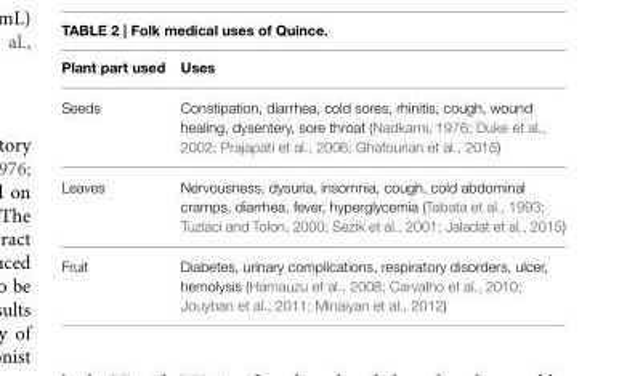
<table><thead><tr><td>Plant part used</td><td>Uses</td></tr></thead><tbody><tr><td>Seeds</td><td>Constipation, diarrhea, cold sores, rhinitis, cough, wound healing, dysentery, sore throat (Nadkarni, 1976; Duke et al., 2002; Prajapati et al., 2006; Ghafourian et al., 2015)</td></tr><tr><td>Leaves</td><td>Nervousness, dysuria, insomnia, cough, cold abdominal cramps, diarrhea, fever, hyperglycemia (Tabata et al., 1993; Tuzlaci and Tolon, 2000; Sezik et al., 2001; Jaladat et al., 2015)</td></tr><tr><td>Fruit</td><td>Diabetes, urinary complications, respiratory disorders, ulcer, hemolysis (Hamauzu et al., 2008; Carvalho et al., 2010; Jouyban et al., 2011; Minaiyan et al., 2012)</td></tr></tbody></table>